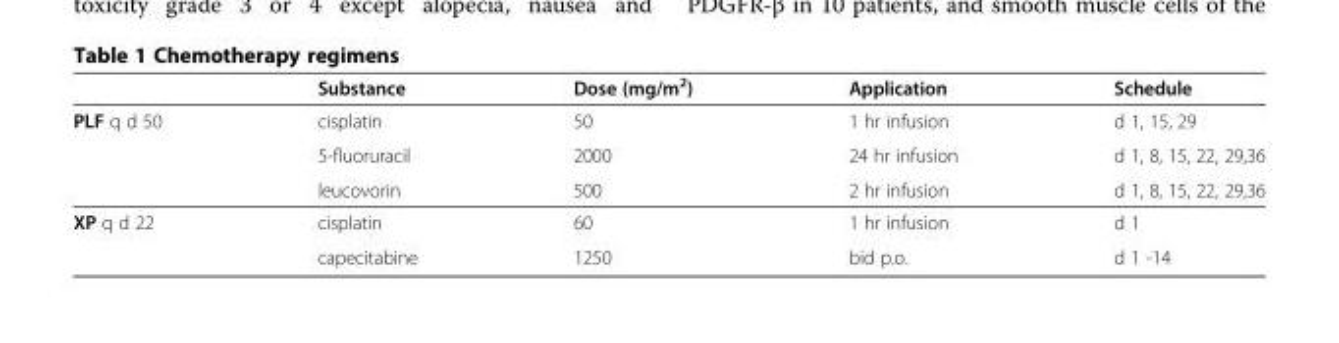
<table><thead><tr><td></td><td>Substance</td><td>Dose (mg/m<sup>2</sup>)</td><td>Application</td><td>Schedule</td></tr></thead><tbody><tr><td rowspan="3">PLF q d 50</td><td>cisplatin</td><td>50</td><td>1 hr infusion</td><td>d 1, 15, 29</td></tr><tr><td>5-fluoruracil</td><td>2000</td><td>24 hr infusion</td><td>d 1, 8, 15, 22, 29,36</td></tr><tr><td>leucovorin</td><td>500</td><td>2 hr infusion</td><td>d 1, 8, 15, 22, 29,36</td></tr><tr><td rowspan="2">XP q d 22</td><td>cisplatin</td><td>60</td><td>1 hr infusion</td><td>d 1</td></tr><tr><td>capecitabine</td><td>1250</td><td>bid p.o.</td><td>d 1 -14</td></tr></tbody></table>